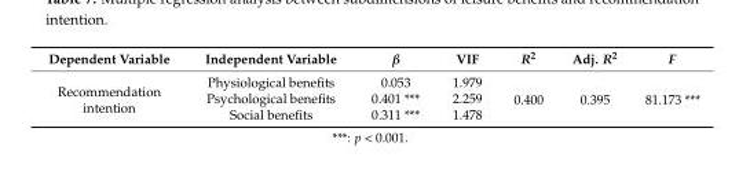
<table><thead><tr><td>Dependent Variable</td><td>Independent Variable</td><td>β</td><td>VIF</td><td>R<sup>2</sup></td><td>Adj. R<sup>2</sup></td><td>F</td></tr></thead><tbody><tr><td rowspan="3">Recommendation intention</td><td>Physiological benefits</td><td>0.053</td><td>1.979</td><td rowspan="3">0.400</td><td rowspan="3">0.395</td><td rowspan="3">81.173 ***</td></tr><tr><td>Psychological benefits</td><td>0.401 ***</td><td>2.259</td></tr><tr><td>Social benefits</td><td>0.311 ***</td><td>1.478</td></tr></tbody></table>